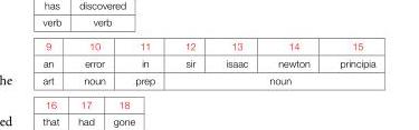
<table><tbody><tr><td>9</td><td>10</td><td>11</td><td>12</td><td>13</td><td>14</td><td>15</td></tr><tr><td>an</td><td>error</td><td>in</td><td>sir</td><td>isaac</td><td>newton</td><td>principia</td></tr><tr><td>art</td><td>noun</td><td>prep</td><td colspan="4">noun</td></tr></tbody></table>